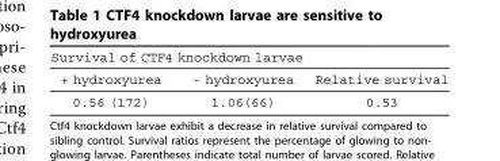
<table><thead><tr><td colspan="2">Survival of CTF4 knockdown larvae</td><td rowspan="2">Relative survival</td></tr><tr><td>+ hydroxyurea</td><td>- hydroxyurea</td></tr></thead><tbody><tr><td>0.56 (172)</td><td>1.06(66)</td><td>0.53</td></tr></tbody></table>